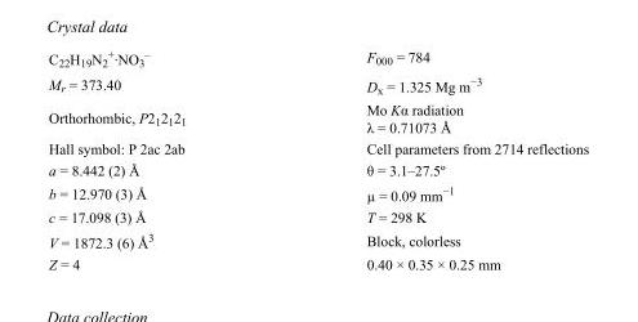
<table><tbody><tr><td>C<sub>22</sub>H<sub>19</sub>N<sub>2</sub> <sup>+</sup>·NO<sub>3</sub> <sup>–</sup></td><td>F000 = 784</td></tr><tr><td>M<sub>r</sub> = 373.40</td><td>D<sub>x</sub> = 1.325 Mg m<sup>−3</sup></td></tr><tr><td>Orthorhombic, P2<sub>1</sub>2<sub>1</sub>2<sub>1</sub></td><td>Mo Kα radiation λ = 0.71073 Å</td></tr><tr><td>Hall symbol: P 2ac 2ab</td><td>Cell parameters from 2714 reflections</td></tr><tr><td>a = 8.442 (2) Å</td><td>θ = 3.1–27.5º</td></tr><tr><td>b = 12.970 (3) Å</td><td>µ = 0.09 mm<sup>−1</sup></td></tr><tr><td>c = 17.098 (3) Å</td><td>T = 298 K</td></tr><tr><td>V = 1872.3 (6) Å<sup>3</sup></td><td>Block, colorless</td></tr><tr><td>Z = 4</td><td>0.40 × 0.35 × 0.25 mm</td></tr></tbody></table>